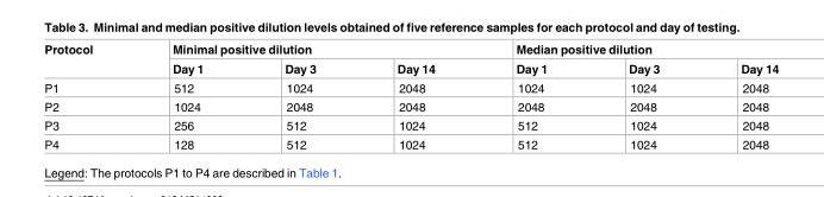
<table><thead><tr><td rowspan="2">Protocol</td><td colspan="3">Minimal positive dilution</td><td colspan="3">Median positive dilution</td></tr><tr><td>Day 1</td><td>Day 3</td><td>Day 14</td><td>Day 1</td><td>Day 3</td><td>Day 14</td></tr></thead><tbody><tr><td>P1</td><td>512</td><td>1024</td><td>2048</td><td>1024</td><td>1024</td><td>2048</td></tr><tr><td>P2</td><td>1024</td><td>2048</td><td>2048</td><td>2048</td><td>2048</td><td>2048</td></tr><tr><td>P3</td><td>256</td><td>512</td><td>1024</td><td>512</td><td>1024</td><td>2048</td></tr><tr><td>P4</td><td>128</td><td>512</td><td>1024</td><td>512</td><td>1024</td><td>2048</td></tr></tbody></table>